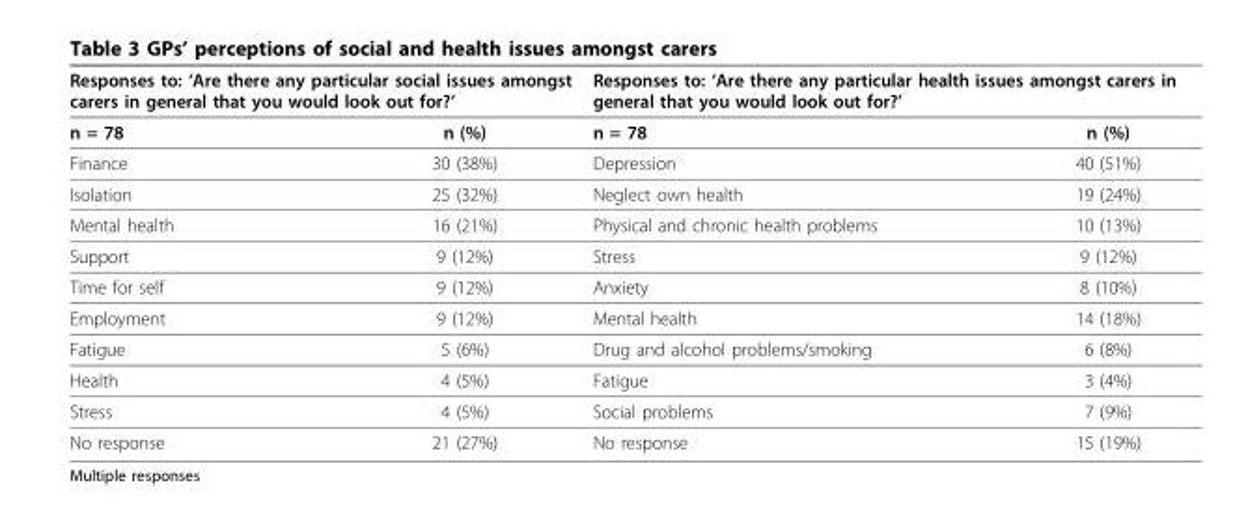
<table><thead><tr><td colspan="2">Responses to: ‘Are there any particular social issues amongst carers in general that you would look out for?’</td><td colspan="2">Responses to: ‘Are there any particular health issues amongst carers in general that you would look out for?’</td></tr><tr><td>n = 78</td><td>n (%)</td><td>n = 78</td><td>n (%)</td></tr></thead><tbody><tr><td>Finance</td><td>30 (38%)</td><td>Depression</td><td>40 (51%)</td></tr><tr><td>Isolation</td><td>25 (32%)</td><td>Neglect own health</td><td>19 (24%)</td></tr><tr><td>Mental health</td><td>16 (21%)</td><td>Physical and chronic health problems</td><td>10 (13%)</td></tr><tr><td>Support</td><td>9 (12%)</td><td>Stress</td><td>9 (12%)</td></tr><tr><td>Time for self</td><td>9 (12%)</td><td>Anxiety</td><td>8 (10%)</td></tr><tr><td>Employment</td><td>9 (12%)</td><td>Mental health</td><td>14 (18%)</td></tr><tr><td>Fatigue</td><td>5 (6%)</td><td>Drug and alcohol problems/smoking</td><td>6 (8%)</td></tr><tr><td>Health</td><td>4 (5%)</td><td>Fatigue</td><td>3 (4%)</td></tr><tr><td>Stress</td><td>4 (5%)</td><td>Social problems</td><td>7 (9%)</td></tr><tr><td>No response</td><td>21 (27%)</td><td>No response</td><td>15 (19%)</td></tr></tbody></table>